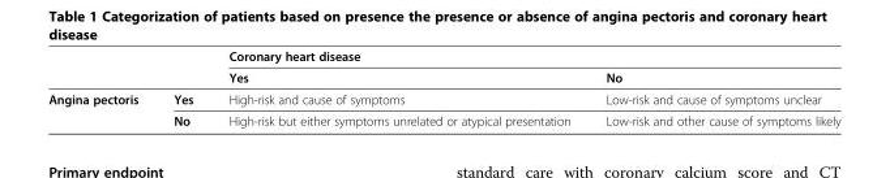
<table><thead><tr><td rowspan="2"></td><td rowspan="2"></td><td rowspan="2">Coronary heart disease Yes</td><td rowspan="2">No</td></tr><tr></tr></thead><tbody><tr><td rowspan="2">Angina pectoris</td><td>Yes</td><td>High-risk and cause of symptoms</td><td>Low-risk and cause of symptoms unclear</td></tr><tr><td>No</td><td>High-risk but either symptoms unrelated or atypical presentation</td><td>Low-risk and other cause of symptoms likely</td></tr></tbody></table>